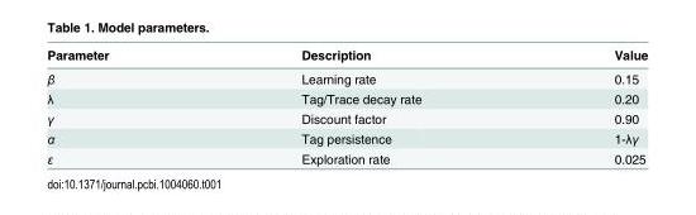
<table><thead><tr><td>Parameter</td><td>Description</td><td>Value</td></tr></thead><tbody><tr><td>β</td><td>Learning rate</td><td>0.15</td></tr><tr><td>λ</td><td>Tag/Trace decay rate</td><td>0.20</td></tr><tr><td>γ</td><td>Discount factor</td><td>0.90</td></tr><tr><td>α</td><td>Tag persistence</td><td>1-λγ</td></tr><tr><td>ε</td><td>Exploration rate</td><td>0.025</td></tr></tbody></table>